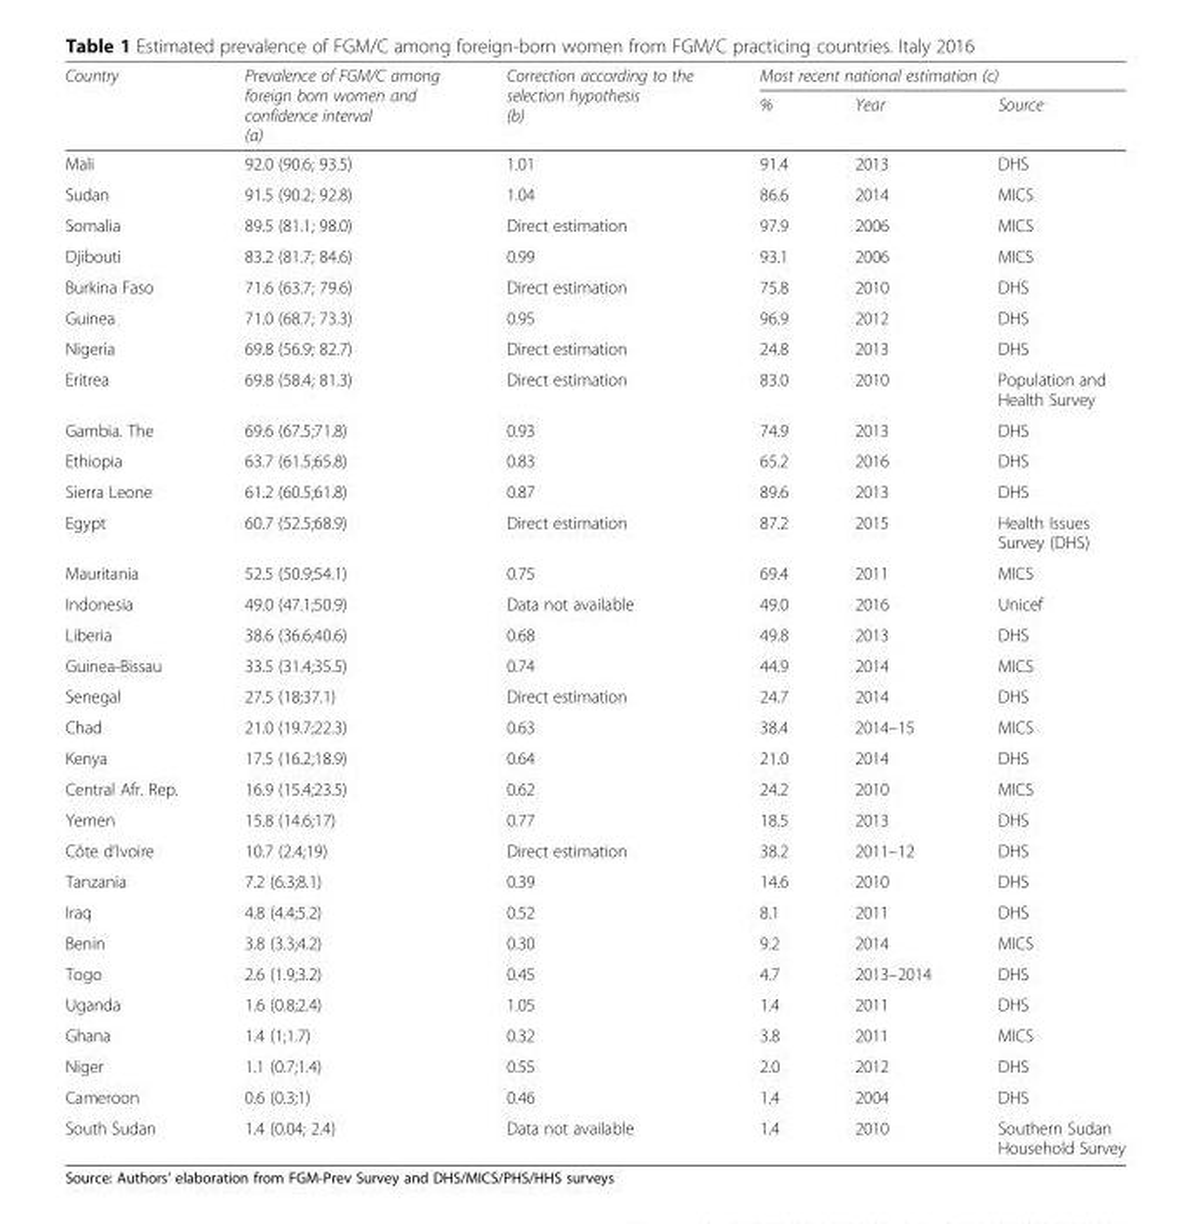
<table><thead><tr><td rowspan="2">Country</td><td rowspan="2">Prevalence of FGM/C among foreign born women and confidence interval (a)</td><td rowspan="2">Correction according to the selection hypothesis (b)</td><td colspan="3">Most recent national estimation (c)</td></tr><tr><td>%</td><td>Year</td><td>Source</td></tr></thead><tbody><tr><td>Mali</td><td>92.0 (90.6; 93.5)</td><td>1.01</td><td>91.4</td><td>2013</td><td>DHS</td></tr><tr><td>Sudan</td><td>91.5 (90.2; 92.8)</td><td>1.04</td><td>86.6</td><td>2014</td><td>MICS</td></tr><tr><td>Somalia</td><td>89.5 (81.1; 98.0)</td><td>Direct estimation</td><td>97.9</td><td>2006</td><td>MICS</td></tr><tr><td>Djibouti</td><td>83.2 (81.7; 84.6)</td><td>0.99</td><td>93.1</td><td>2006</td><td>MICS</td></tr><tr><td>Burkina Faso</td><td>71.6 (63.7; 79.6)</td><td>Direct estimation</td><td>75.8</td><td>2010</td><td>DHS</td></tr><tr><td>Guinea</td><td>71.0 (68.7; 73.3)</td><td>0.95</td><td>96.9</td><td>2012</td><td>DHS</td></tr><tr><td>Nigeria</td><td>69.8 (56.9; 82.7)</td><td>Direct estimation</td><td>24.8</td><td>2013</td><td>DHS</td></tr><tr><td>Eritrea</td><td>69.8 (58.4; 81.3)</td><td>Direct estimation</td><td>83.0</td><td>2010</td><td>Population and Health Survey</td></tr><tr><td>Gambia. The</td><td>69.6 (67.5;71.8)</td><td>0.93</td><td>74.9</td><td>2013</td><td>DHS</td></tr><tr><td>Ethiopia</td><td>63.7 (61.5;65.8)</td><td>0.83</td><td>65.2</td><td>2016</td><td>DHS</td></tr><tr><td>Sierra Leone</td><td>61.2 (60.5;61.8)</td><td>0.87</td><td>89.6</td><td>2013</td><td>DHS</td></tr><tr><td>Egypt</td><td>60.7 (52.5;68.9)</td><td>Direct estimation</td><td>87.2</td><td>2015</td><td>Health Issues Survey (DHS)</td></tr><tr><td>Mauritania</td><td>52.5 (50.9;54.1)</td><td>0.75</td><td>69.4</td><td>2011</td><td>MICS</td></tr><tr><td>Indonesia</td><td>49.0 (47.1;50.9)</td><td>Data not available</td><td>49.0</td><td>2016</td><td>Unicef</td></tr><tr><td>Liberia</td><td>38.6 (36.6;40.6)</td><td>0.68</td><td>49.8</td><td>2013</td><td>DHS</td></tr><tr><td>Guinea-Bissau</td><td>33.5 (31.4;35.5)</td><td>0.74</td><td>44.9</td><td>2014</td><td>MICS</td></tr><tr><td>Senegal</td><td>27.5 (18;37.1)</td><td>Direct estimation</td><td>24.7</td><td>2014</td><td>DHS</td></tr><tr><td>Chad</td><td>21.0 (19.7;22.3)</td><td>0.63</td><td>38.4</td><td>2014–15</td><td>MICS</td></tr><tr><td>Kenya</td><td>17.5 (16.2;18.9)</td><td>0.64</td><td>21.0</td><td>2014</td><td>DHS</td></tr><tr><td>Central Afr. Rep.</td><td>16.9 (15.4;23.5)</td><td>0.62</td><td>24.2</td><td>2010</td><td>MICS</td></tr><tr><td>Yemen</td><td>15.8 (14.6;17)</td><td>0.77</td><td>18.5</td><td>2013</td><td>DHS</td></tr><tr><td>Côte d’Ivoire</td><td>10.7 (2.4;19)</td><td>Direct estimation</td><td>38.2</td><td>2011–12</td><td>DHS</td></tr><tr><td>Tanzania</td><td>7.2 (6.3;8.1)</td><td>0.39</td><td>14.6</td><td>2010</td><td>DHS</td></tr><tr><td>Iraq</td><td>4.8 (4.4;5.2)</td><td>0.52</td><td>8.1</td><td>2011</td><td>DHS</td></tr><tr><td>Benin</td><td>3.8 (3.3;4.2)</td><td>0.30</td><td>9.2</td><td>2014</td><td>MICS</td></tr><tr><td>Togo</td><td>2.6 (1.9;3.2)</td><td>0.45</td><td>4.7</td><td>2013–2014</td><td>DHS</td></tr><tr><td>Uganda</td><td>1.6 (0.8;2.4)</td><td>1.05</td><td>1.4</td><td>2011</td><td>DHS</td></tr><tr><td>Ghana</td><td>1.4 (1;1.7)</td><td>0.32</td><td>3.8</td><td>2011</td><td>MICS</td></tr><tr><td>Niger</td><td>1.1 (0.7;1.4)</td><td>0.55</td><td>2.0</td><td>2012</td><td>DHS</td></tr><tr><td>Cameroon</td><td>0.6 (0.3;1)</td><td>0.46</td><td>1.4</td><td>2004</td><td>DHS</td></tr><tr><td>South Sudan</td><td>1.4 (0.04; 2.4)</td><td>Data not available</td><td>1.4</td><td>2010</td><td>Southern Sudan Household Survey</td></tr></tbody></table>